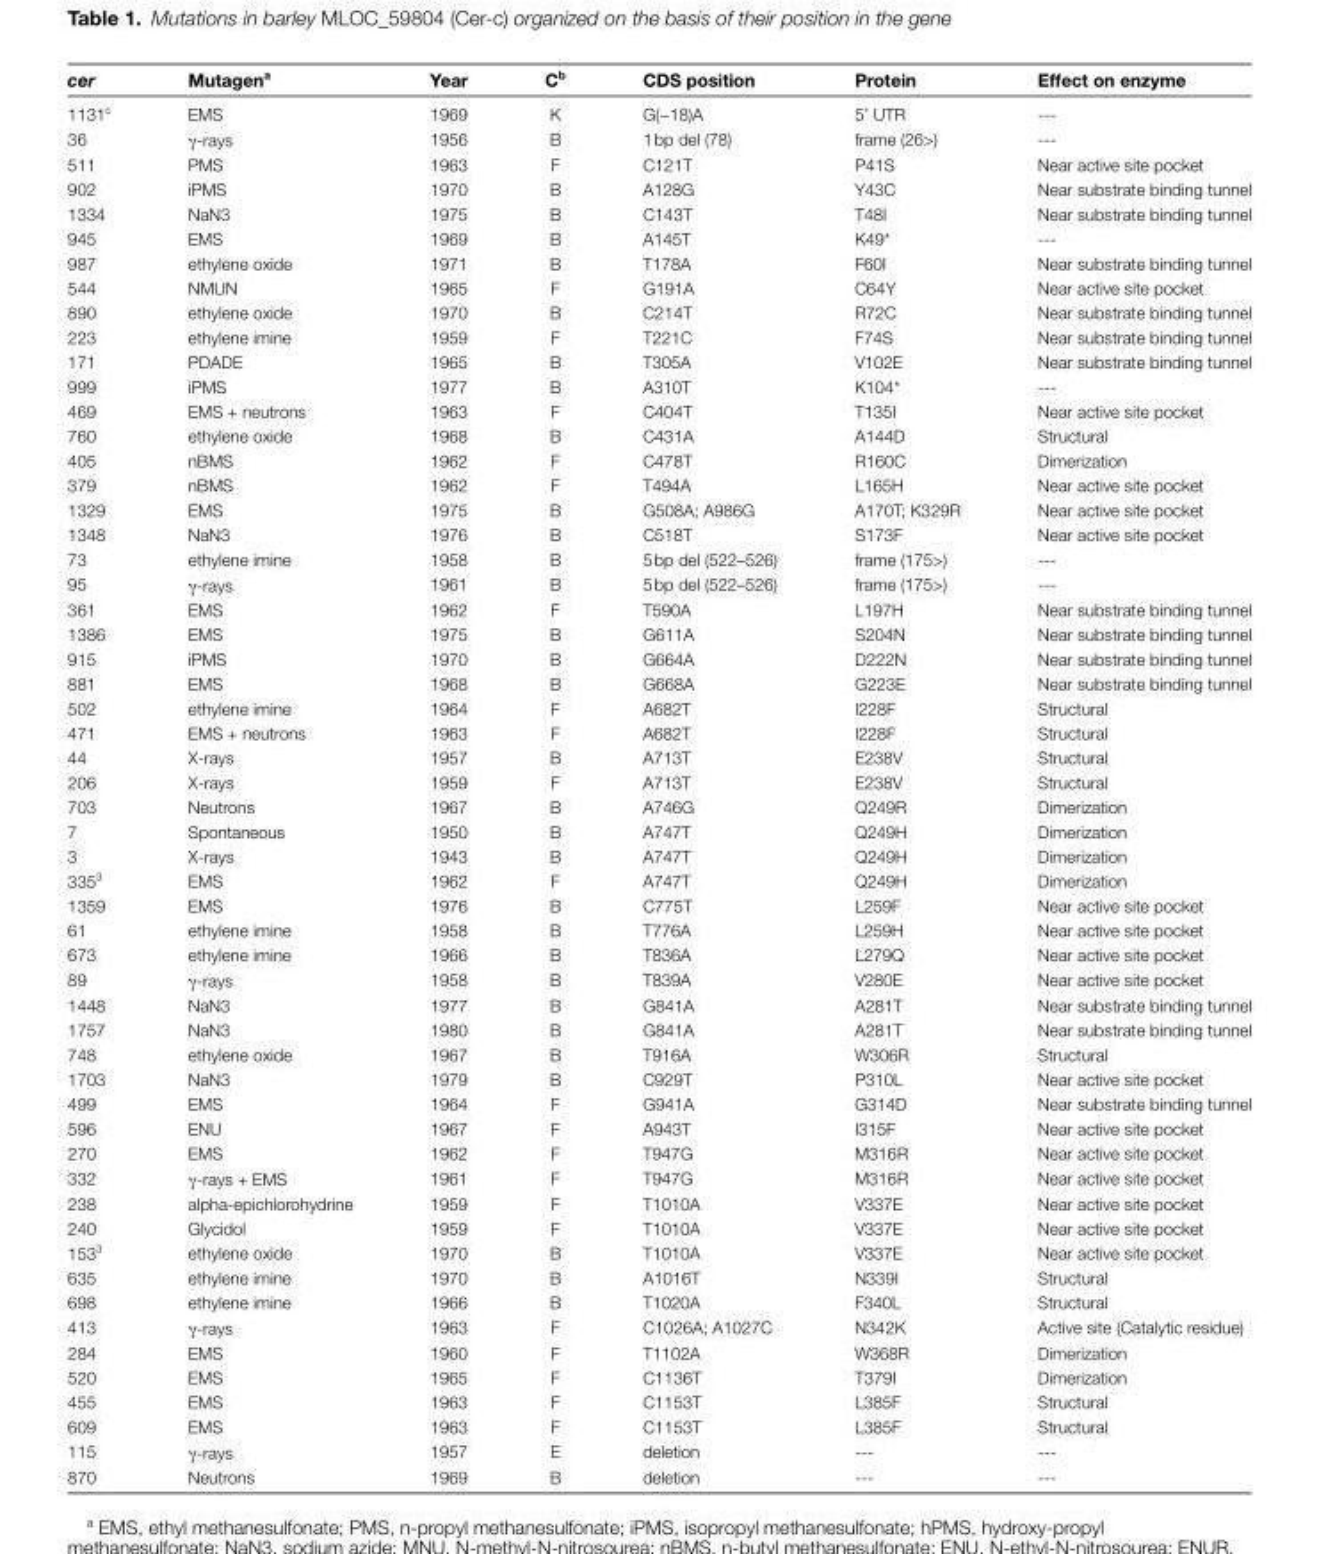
<table><thead><tr><td>cer</td><td>Mutagen<sup>a</sup></td><td>Year</td><td>C<sup>b</sup></td><td>CDS position</td><td>Protein</td><td>Effect on enzyme</td></tr></thead><tbody><tr><td>1131<sup>c</sup></td><td>EMS</td><td>1969</td><td>K</td><td>G(−18)A</td><td>5’ UTR</td><td>---</td></tr><tr><td>36</td><td>γ-rays</td><td>1956</td><td>B</td><td>1 bp del (78)</td><td>frame (26&gt;)</td><td>---</td></tr><tr><td>511</td><td>PMS</td><td>1963</td><td>F</td><td>C121T</td><td>P41S</td><td>Near active site pocket</td></tr><tr><td>902</td><td>iPMS</td><td>1970</td><td>B</td><td>A128G</td><td>Y43C</td><td>Near substrate binding tunnel</td></tr><tr><td>1334</td><td>NaN3</td><td>1975</td><td>B</td><td>C143T</td><td>T48I</td><td>Near substrate binding tunnel</td></tr><tr><td>945</td><td>EMS</td><td>1969</td><td>B</td><td>A145T</td><td>K49*</td><td>---</td></tr><tr><td>987</td><td>ethylene oxide</td><td>1971</td><td>B</td><td>T178A</td><td>F60I</td><td>Near substrate binding tunnel</td></tr><tr><td>544</td><td>NMUN</td><td>1965</td><td>F</td><td>G191A</td><td>C64Y</td><td>Near active site pocket</td></tr><tr><td>890</td><td>ethylene oxide</td><td>1970</td><td>B</td><td>C214T</td><td>R72C</td><td>Near substrate binding tunnel</td></tr><tr><td>223</td><td>ethylene imine</td><td>1959</td><td>F</td><td>T221C</td><td>F74S</td><td>Near substrate binding tunnel</td></tr><tr><td>171</td><td>PDADE</td><td>1965</td><td>B</td><td>T305A</td><td>V102E</td><td>Near substrate binding tunnel</td></tr><tr><td>999</td><td>iPMS</td><td>1977</td><td>B</td><td>A310T</td><td>K104*</td><td>---</td></tr><tr><td>469</td><td>EMS + neutrons</td><td>1963</td><td>F</td><td>C404T</td><td>T135I</td><td>Near active site pocket</td></tr><tr><td>760</td><td>ethylene oxide</td><td>1968</td><td>B</td><td>C431A</td><td>A144D</td><td>Structural</td></tr><tr><td>405</td><td>nBMS</td><td>1962</td><td>F</td><td>C478T</td><td>R160C</td><td>Dimerization</td></tr><tr><td>379</td><td>nBMS</td><td>1962</td><td>F</td><td>T494A</td><td>L165H</td><td>Near active site pocket</td></tr><tr><td>1329</td><td>EMS</td><td>1975</td><td>B</td><td>G508A; A986G</td><td>A170T; K329R</td><td>Near active site pocket</td></tr><tr><td>1348</td><td>NaN3</td><td>1976</td><td>B</td><td>C518T</td><td>S173F</td><td>Near active site pocket</td></tr><tr><td>73</td><td>ethylene imine</td><td>1958</td><td>B</td><td>5 bp del (522–526)</td><td>frame (175&gt;)</td><td>---</td></tr><tr><td>95</td><td>γ-rays</td><td>1961</td><td>B</td><td>5 bp del (522–526)</td><td>frame (175&gt;)</td><td>---</td></tr><tr><td>361</td><td>EMS</td><td>1962</td><td>F</td><td>T590A</td><td>L197H</td><td>Near substrate binding tunnel</td></tr><tr><td>1386</td><td>EMS</td><td>1975</td><td>B</td><td>G611A</td><td>S204N</td><td>Near substrate binding tunnel</td></tr><tr><td>915</td><td>iPMS</td><td>1970</td><td>B</td><td>G664A</td><td>D222N</td><td>Near substrate binding tunnel</td></tr><tr><td>881</td><td>EMS</td><td>1968</td><td>B</td><td>G668A</td><td>G223E</td><td>Near substrate binding tunnel</td></tr><tr><td>502</td><td>ethylene imine</td><td>1964</td><td>F</td><td>A682T</td><td>I228F</td><td>Structural</td></tr><tr><td>471</td><td>EMS + neutrons</td><td>1963</td><td>F</td><td>A682T</td><td>I228F</td><td>Structural</td></tr><tr><td>44</td><td>X-rays</td><td>1957</td><td>B</td><td>A713T</td><td>E238V</td><td>Structural</td></tr><tr><td>206</td><td>X-rays</td><td>1959</td><td>F</td><td>A713T</td><td>E238V</td><td>Structural</td></tr><tr><td>703</td><td>Neutrons</td><td>1967</td><td>B</td><td>A746G</td><td>Q249R</td><td>Dimerization</td></tr><tr><td>7</td><td>Spontaneous</td><td>1950</td><td>B</td><td>A747T</td><td>Q249H</td><td>Dimerization</td></tr><tr><td>3</td><td>X-rays</td><td>1943</td><td>B</td><td>A747T</td><td>Q249H</td><td>Dimerization</td></tr><tr><td>335<sup>3</sup></td><td>EMS</td><td>1962</td><td>F</td><td>A747T</td><td>Q249H</td><td>Dimerization</td></tr><tr><td>1359</td><td>EMS</td><td>1976</td><td>B</td><td>C775T</td><td>L259F</td><td>Near active site pocket</td></tr><tr><td>61</td><td>ethylene imine</td><td>1958</td><td>B</td><td>T776A</td><td>L259H</td><td>Near active site pocket</td></tr><tr><td>673</td><td>ethylene imine</td><td>1966</td><td>B</td><td>T836A</td><td>L279Q</td><td>Near active site pocket</td></tr><tr><td>89</td><td>γ-rays</td><td>1958</td><td>B</td><td>T839A</td><td>V280E</td><td>Near active site pocket</td></tr><tr><td>1448</td><td>NaN3</td><td>1977</td><td>B</td><td>G841A</td><td>A281T</td><td>Near substrate binding tunnel</td></tr><tr><td>1757</td><td>NaN3</td><td>1980</td><td>B</td><td>G841A</td><td>A281T</td><td>Near substrate binding tunnel</td></tr><tr><td>748</td><td>ethylene oxide</td><td>1967</td><td>B</td><td>T916A</td><td>W306R</td><td>Structural</td></tr><tr><td>1703</td><td>NaN3</td><td>1979</td><td>B</td><td>C929T</td><td>P310L</td><td>Near active site pocket</td></tr><tr><td>499</td><td>EMS</td><td>1964</td><td>F</td><td>G941A</td><td>G314D</td><td>Near substrate binding tunnel</td></tr><tr><td>596</td><td>ENU</td><td>1967</td><td>F</td><td>A943T</td><td>I315F</td><td>Near active site pocket</td></tr><tr><td>270</td><td>EMS</td><td>1962</td><td>F</td><td>T947G</td><td>M316R</td><td>Near active site pocket</td></tr><tr><td>332</td><td>γ-rays + EMS</td><td>1961</td><td>F</td><td>T947G</td><td>M316R</td><td>Near active site pocket</td></tr><tr><td>238</td><td>alpha-epichlorohydrine</td><td>1959</td><td>F</td><td>T1010A</td><td>V337E</td><td>Near active site pocket</td></tr><tr><td>240</td><td>Glycidol</td><td>1959</td><td>F</td><td>T1010A</td><td>V337E</td><td>Near active site pocket</td></tr><tr><td>153<sup>3</sup></td><td>ethylene oxide</td><td>1970</td><td>B</td><td>T1010A</td><td>V337E</td><td>Near active site pocket</td></tr><tr><td>635</td><td>ethylene imine</td><td>1970</td><td>B</td><td>A1016T</td><td>N339I</td><td>Structural</td></tr><tr><td>698</td><td>ethylene imine</td><td>1966</td><td>B</td><td>T1020A</td><td>F340L</td><td>Structural</td></tr><tr><td>413</td><td>γ-rays</td><td>1963</td><td>F</td><td>C1026A; A1027C</td><td>N342K</td><td>Active site (Catalytic residue)</td></tr><tr><td>284</td><td>EMS</td><td>1960</td><td>F</td><td>T1102A</td><td>W368R</td><td>Dimerization</td></tr><tr><td>520</td><td>EMS</td><td>1965</td><td>F</td><td>C1136T</td><td>T379I</td><td>Dimerization</td></tr><tr><td>455</td><td>EMS</td><td>1963</td><td>F</td><td>C1153T</td><td>L385F</td><td>Structural</td></tr><tr><td>609</td><td>EMS</td><td>1963</td><td>F</td><td>C1153T</td><td>L385F</td><td>Structural</td></tr><tr><td>115</td><td>γ-rays</td><td>1957</td><td>E</td><td>deletion</td><td>---</td><td>---</td></tr><tr><td>870</td><td>Neutrons</td><td>1969</td><td>B</td><td>deletion</td><td>---</td><td>---</td></tr></tbody></table>